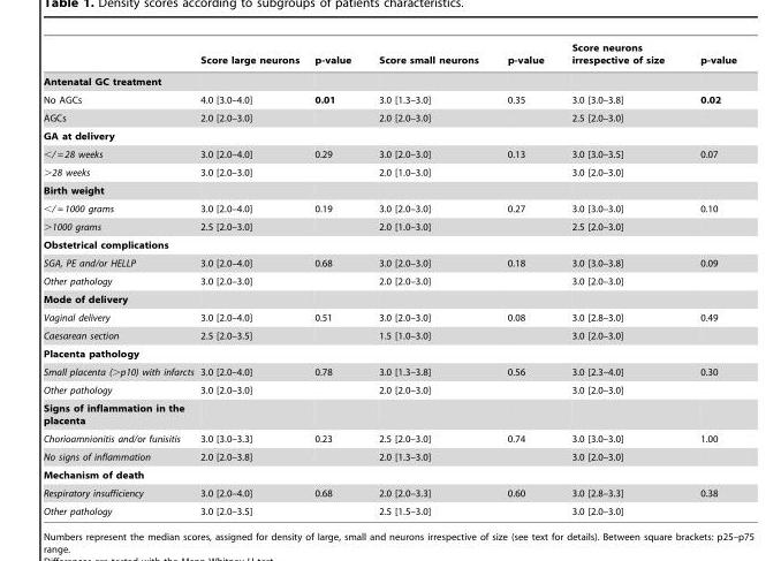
<table><thead><tr><td></td><td>Score large neurons</td><td>p-value</td><td>Score small neurons</td><td>p-value</td><td>Score neurons irrespective of size</td><td>p-value</td></tr></thead><tbody><tr><td colspan="7">Antenatal GC treatment</td></tr><tr><td>No AGCs</td><td>4.0 [3.0–4.0]</td><td>0.01</td><td>3.0 [1.3–3.0]</td><td>0.35</td><td>3.0 [3.0–3.8]</td><td>0.02</td></tr><tr><td>AGCs</td><td>2.0 [2.0–3.0]</td><td></td><td>2.0 [2.0–3.0]</td><td></td><td>2.5 [2.0–3.0]</td><td></td></tr><tr><td colspan="7">GA at delivery</td></tr><tr><td>&lt;/ = 28 weeks</td><td>3.0 [2.0–4.0]</td><td>0.29</td><td>3.0 [2.0–3.0]</td><td>0.13</td><td>3.0 [3.0–3.5]</td><td>0.07</td></tr><tr><td>&gt;28 weeks</td><td>3.0 [2.0–3.0]</td><td></td><td>2.0 [1.0–3.0]</td><td></td><td>3.0 [2.0–3.0]</td><td></td></tr><tr><td colspan="7">Birth weight</td></tr><tr><td>&lt;/ = 1000 grams</td><td>3.0 [2.0–4.0]</td><td>0.19</td><td>3.0 [2.0–3.0]</td><td>0.27</td><td>3.0 [3.0–3.0]</td><td>0.10</td></tr><tr><td>&gt;1000 grams</td><td>2.5 [2.0–3.0]</td><td></td><td>2.0 [1.0–3.0]</td><td></td><td>2.5 [2.0–3.0]</td><td></td></tr><tr><td colspan="7">Obstetrical complications</td></tr><tr><td>SGA, PE and/or HELLP</td><td>3.0 [2.0–4.0]</td><td>0.68</td><td>3.0 [2.0–3.0]</td><td>0.18</td><td>3.0 [3.0–3.8]</td><td>0.09</td></tr><tr><td>Other pathology</td><td>3.0 [2.0–3.0]</td><td></td><td>2.0 [2.0–3.0]</td><td></td><td>3.0 [2.0–3.0]</td><td></td></tr><tr><td colspan="7">Mode of delivery</td></tr><tr><td>Vaginal delivery</td><td>3.0 [2.0–4.0]</td><td>0.51</td><td>3.0 [2.0–3.0]</td><td>0.08</td><td>3.0 [2.8–3.0]</td><td>0.49</td></tr><tr><td>Caesarean section</td><td>2.5 [2.0–3.5]</td><td></td><td>1.5 [1.0–3.0]</td><td></td><td>3.0 [2.0–3.0]</td><td></td></tr><tr><td colspan="7">Placenta pathology</td></tr><tr><td>Small placenta (&gt;p10) with infarcts</td><td>3.0 [2.0–4.0]</td><td>0.78</td><td>3.0 [1.3–3.8]</td><td>0.56</td><td>3.0 [2.3–4.0]</td><td>0.30</td></tr><tr><td>Other pathology</td><td>3.0 [2.0–3.0]</td><td></td><td>2.0 [2.0–3.0]</td><td></td><td>3.0 [2.0–3.0]</td><td></td></tr><tr><td colspan="7">Signs of inflammation in the placenta</td></tr><tr><td>Chorioamnionitis and/or funisitis</td><td>3.0 [3.0–3.3]</td><td>0.23</td><td>2.5 [2.0–3.0]</td><td>0.74</td><td>3.0 [3.0–3.0]</td><td>1.00</td></tr><tr><td>No signs of inflammation</td><td>2.0 [2.0–3.8]</td><td></td><td>2.0 [1.3–3.0]</td><td></td><td>3.0 [2.0–3.0]</td><td></td></tr><tr><td colspan="7">Mechanism of death</td></tr><tr><td>Respiratory insufficiency</td><td>3.0 [2.0–4.0]</td><td>0.68</td><td>2.0 [2.0–3.3]</td><td>0.60</td><td>3.0 [2.8–3.3]</td><td>0.38</td></tr><tr><td>Other pathology</td><td>3.0 [2.0–3.5]</td><td></td><td>2.5 [1.5–3.0]</td><td></td><td>3.0 [2.0–3.0]</td><td></td></tr></tbody></table>